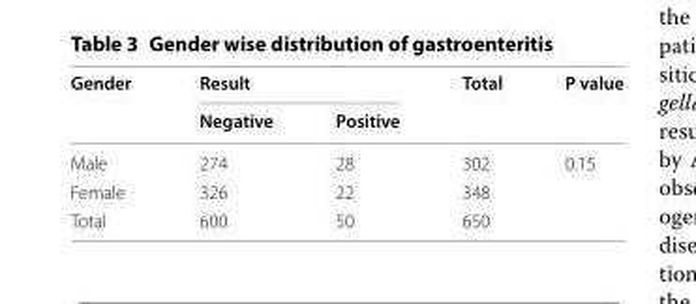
<table><thead><tr><td rowspan="2">Gender</td><td colspan="2">Result</td><td rowspan="2">Total</td><td rowspan="2">P value</td></tr><tr><td>Negative</td><td>Positive</td></tr></thead><tbody><tr><td>Male</td><td>274</td><td>28</td><td>302</td><td rowspan="3">0.15</td></tr><tr><td>Female</td><td>326</td><td>22</td><td>348</td></tr><tr><td>Total</td><td>600</td><td>50</td><td>650</td></tr></tbody></table>